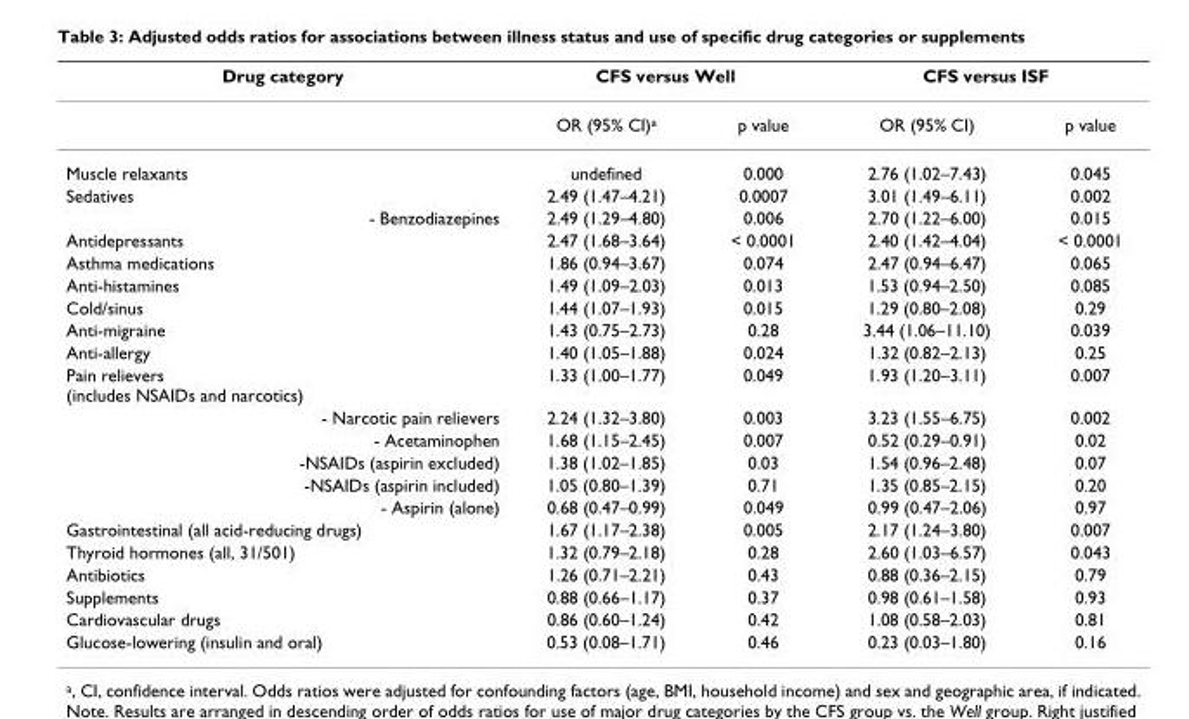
<table><thead><tr><td rowspan="2">Drug category</td><td colspan="2">CFS versus Well</td><td colspan="2">CFS versus ISF</td></tr><tr><td>OR (95% CI)<sup>a</sup></td><td>p value</td><td>OR (95% CI)</td><td>p value</td></tr></thead><tbody><tr><td>Muscle relaxants</td><td>undefined</td><td>0.000</td><td>2.76 (1.02–7.43)</td><td>0.045</td></tr><tr><td>Sedatives</td><td>2.49 (1.47–4.21)</td><td>0.0007</td><td>3.01 (1.49–6.11)</td><td>0.002</td></tr><tr><td>- Benzodiazepines</td><td>2.49 (1.29–4.80)</td><td>0.006</td><td>2.70 (1.22–6.00)</td><td>0.015</td></tr><tr><td>Antidepressants</td><td>2.47 (1.68–3.64)</td><td>&lt; 0.0001</td><td>2.40 (1.42–4.04)</td><td>&lt; 0.0001</td></tr><tr><td>Asthma medications</td><td>1.86 (0.94–3.67)</td><td>0.074</td><td>2.47 (0.94–6.47)</td><td>0.065</td></tr><tr><td>Anti-histamines</td><td>1.49 (1.09–2.03)</td><td>0.013</td><td>1.53 (0.94–2.50)</td><td>0.085</td></tr><tr><td>Cold/sinus</td><td>1.44 (1.07–1.93)</td><td>0.015</td><td>1.29 (0.80–2.08)</td><td>0.29</td></tr><tr><td>Anti-migraine</td><td>1.43 (0.75–2.73)</td><td>0.28</td><td>3.44 (1.06–11.10)</td><td>0.039</td></tr><tr><td>Anti-allergy</td><td>1.40 (1.05–1.88)</td><td>0.024</td><td>1.32 (0.82–2.13)</td><td>0.25</td></tr><tr><td>Pain relievers (includes NSAIDs and narcotics)</td><td>1.33 (1.00–1.77)</td><td>0.049</td><td>1.93 (1.20–3.11)</td><td>0.007</td></tr><tr><td>- Narcotic pain relievers</td><td>2.24 (1.32–3.80)</td><td>0.003</td><td>3.23 (1.55–6.75)</td><td>0.002</td></tr><tr><td>- Acetaminophen</td><td>1.68 (1.15–2.45)</td><td>0.007</td><td>0.52 (0.29–0.91)</td><td>0.02</td></tr><tr><td>-NSAIDs (aspirin excluded)</td><td>1.38 (1.02–1.85)</td><td>0.03</td><td>1.54 (0.96–2.48)</td><td>0.07</td></tr><tr><td>-NSAIDs (aspirin included)</td><td>1.05 (0.80–1.39)</td><td>0.71</td><td>1.35 (0.85–2.15)</td><td>0.20</td></tr><tr><td>- Aspirin (alone)</td><td>0.68 (0.47–0.99)</td><td>0.049</td><td>0.99 (0.47–2.06)</td><td>0.97</td></tr><tr><td>Gastrointestinal (all acid-reducing drugs)</td><td>1.67 (1.17–2.38)</td><td>0.005</td><td>2.17 (1.24–3.80)</td><td>0.007</td></tr><tr><td>Thyroid hormones (all, 31/501)</td><td>1.32 (0.79–2.18)</td><td>0.28</td><td>2.60 (1.03–6.57)</td><td>0.043</td></tr><tr><td>Antibiotics</td><td>1.26 (0.71–2.21)</td><td>0.43</td><td>0.88 (0.36–2.15)</td><td>0.79</td></tr><tr><td>Supplements</td><td>0.88 (0.66–1.17)</td><td>0.37</td><td>0.98 (0.61–1.58)</td><td>0.93</td></tr><tr><td>Cardiovascular drugs</td><td>0.86 (0.60–1.24)</td><td>0.42</td><td>1.08 (0.58–2.03)</td><td>0.81</td></tr><tr><td>Glucose-lowering (insulin and oral)</td><td>0.53 (0.08–1.71)</td><td>0.46</td><td>0.23 (0.03–1.80)</td><td>0.16</td></tr></tbody></table>